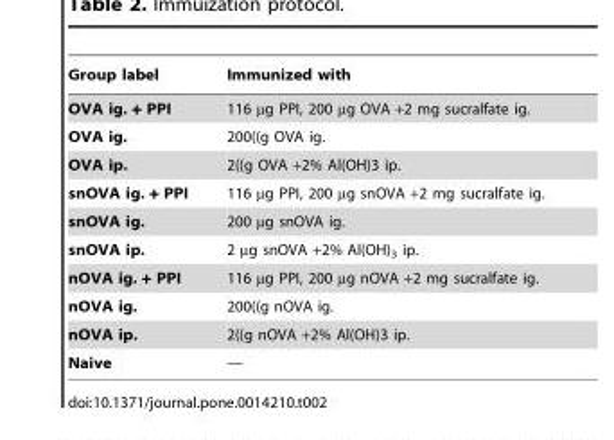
<table><thead><tr><td>Group label</td><td>Immunized with</td></tr></thead><tbody><tr><td>OVA ig. + PPI</td><td>116 µg PPI, 200 µg OVA +2 mg sucralfate ig.</td></tr><tr><td>OVA ig.</td><td>200((g OVA ig.</td></tr><tr><td>OVA ip.</td><td>2((g OVA +2% Al(OH)3 ip.</td></tr><tr><td>snOVA ig. + PPI</td><td>116 µg PPI, 200 µg snOVA +2 mg sucralfate ig.</td></tr><tr><td>snOVA ig.</td><td>200 µg snOVA ig.</td></tr><tr><td>snOVA ip.</td><td>2 µg snOVA +2% Al(OH)<sub>3</sub> ip.</td></tr><tr><td>nOVA ig. + PPI</td><td>116 µg PPI, 200 µg nOVA +2 mg sucralfate ig.</td></tr><tr><td>nOVA ig.</td><td>200((g nOVA ig.</td></tr><tr><td>nOVA ip.</td><td>2((g nOVA +2% Al(OH)3 ip.</td></tr><tr><td>Naive</td><td>—</td></tr></tbody></table>